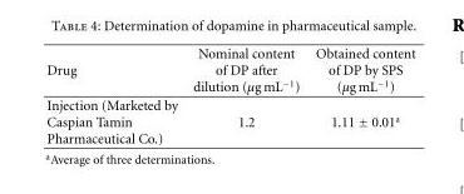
<table><thead><tr><td>Drug</td><td>Nominal content of DP after dilution (µg mL<sup>−1</sup>)</td><td>Obtained content of DP by SPS (µg mL<sup>−1</sup>)</td></tr></thead><tbody><tr><td>Injection (Marketed by Caspian Tamin Pharmaceutical Co.)</td><td>1.2</td><td>1.11 ± 0.01<sup>a</sup></td></tr></tbody></table>